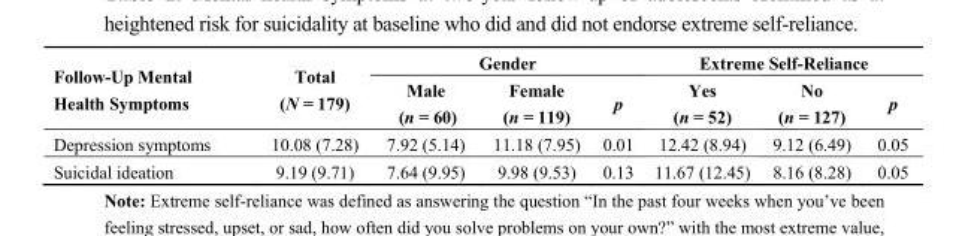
<table><thead><tr><td rowspan="2">Follow-Up Mental Health Symptoms</td><td rowspan="2">Total (N = 179)</td><td colspan="3">Gender</td><td colspan="3">Extreme Self-Reliance</td></tr><tr><td>Male (n = 60)</td><td>Female (n = 119)</td><td>p</td><td>Yes (n = 52)</td><td>No (n = 127)</td><td>p</td></tr></thead><tbody><tr><td>Depression symptoms</td><td>10.08 (7.28)</td><td>7.92 (5.14)</td><td>11.18 (7.95)</td><td>0.01</td><td>12.42 (8.94)</td><td>9.12 (6.49)</td><td>0.05</td></tr><tr><td>Suicidal ideation</td><td>9.19 (9.71)</td><td>7.64 (9.95)</td><td>9.98 (9.53)</td><td>0.13</td><td>11.67 (12.45)</td><td>8.16 (8.28)</td><td>0.05</td></tr></tbody></table>